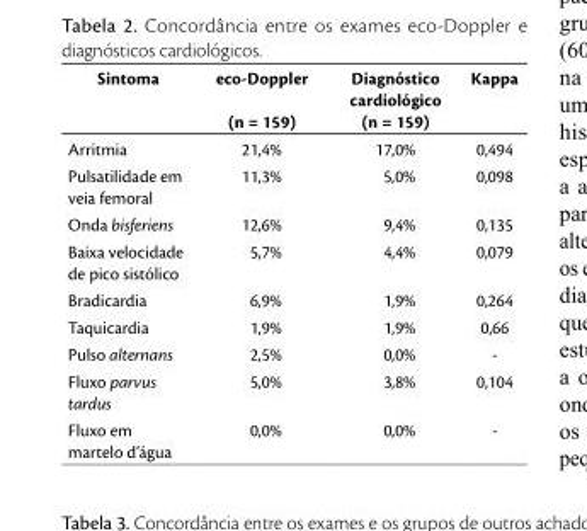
<table><thead><tr><td>Sintoma</td><td>eco-Doppler (n = 159)</td><td>Diagnóstico cardiológico (n = 159)</td><td>Kappa</td></tr></thead><tbody><tr><td>Arritmia</td><td>21,4%</td><td>17,0%</td><td>0,494</td></tr><tr><td>Pulsatilidade em veia femoral</td><td>11,3%</td><td>5,0%</td><td>0,098</td></tr><tr><td>Onda bisferiens</td><td>12,6%</td><td>9,4%</td><td>0,135</td></tr><tr><td>Baixa velocidade de pico sistólico</td><td>5,7%</td><td>4,4%</td><td>0,079</td></tr><tr><td>Bradicardia</td><td>6,9%</td><td>1,9%</td><td>0,264</td></tr><tr><td>Taquicardia</td><td>1,9%</td><td>1,9%</td><td>0,66</td></tr><tr><td>Pulso alternans</td><td>2,5%</td><td>0,0%</td><td>-</td></tr><tr><td>Fluxo parvus tardus</td><td>5,0%</td><td>3,8%</td><td>0,104</td></tr><tr><td>Fluxo em martelo d’água</td><td>0,0%</td><td>0,0%</td><td>-</td></tr></tbody></table>